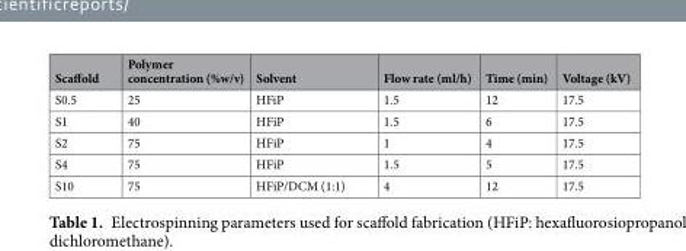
<table><thead><tr><td>Scaffold</td><td>Polymer concentration (%w/v)</td><td>Solvent</td><td>Flow rate (ml/h)</td><td>Time (min)</td><td>Voltage (kV)</td></tr></thead><tbody><tr><td>S0.5</td><td>25</td><td>HFiP</td><td>1.5</td><td>12</td><td>17.5</td></tr><tr><td>S1</td><td>40</td><td>HFiP</td><td>1.5</td><td>6</td><td>17.5</td></tr><tr><td>S2</td><td>75</td><td>HFiP</td><td>1</td><td>4</td><td>17.5</td></tr><tr><td>S4</td><td>75</td><td>HFiP</td><td>1.5</td><td>5</td><td>17.5</td></tr><tr><td>S10</td><td>75</td><td>HFiP/DCM (1:1)</td><td>4</td><td>12</td><td>17.5</td></tr></tbody></table>